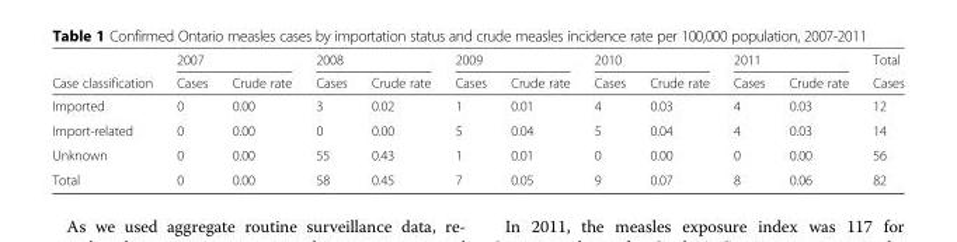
<table><thead><tr><td rowspan="2">Case classification</td><td colspan="2">2007</td><td colspan="2">2008</td><td colspan="2">2009</td><td colspan="2">2010</td><td colspan="2">2011</td><td rowspan="2">Total Cases</td></tr><tr><td>Cases</td><td>Crude rate</td><td>Cases</td><td>Crude rate</td><td>Cases</td><td>Crude rate</td><td>Cases</td><td>Crude rate</td><td>Cases</td><td>Crude rate</td></tr></thead><tbody><tr><td>Imported</td><td>0</td><td>0.00</td><td>3</td><td>0.02</td><td>1</td><td>0.01</td><td>4</td><td>0.03</td><td>4</td><td>0.03</td><td>12</td></tr><tr><td>Import-related</td><td>0</td><td>0.00</td><td>0</td><td>0.00</td><td>5</td><td>0.04</td><td>5</td><td>0.04</td><td>4</td><td>0.03</td><td>14</td></tr><tr><td>Unknown</td><td>0</td><td>0.00</td><td>55</td><td>0.43</td><td>1</td><td>0.01</td><td>0</td><td>0.00</td><td>0</td><td>0.00</td><td>56</td></tr><tr><td>Total</td><td>0</td><td>0.00</td><td>58</td><td>0.45</td><td>7</td><td>0.05</td><td>9</td><td>0.07</td><td>8</td><td>0.06</td><td>82</td></tr></tbody></table>